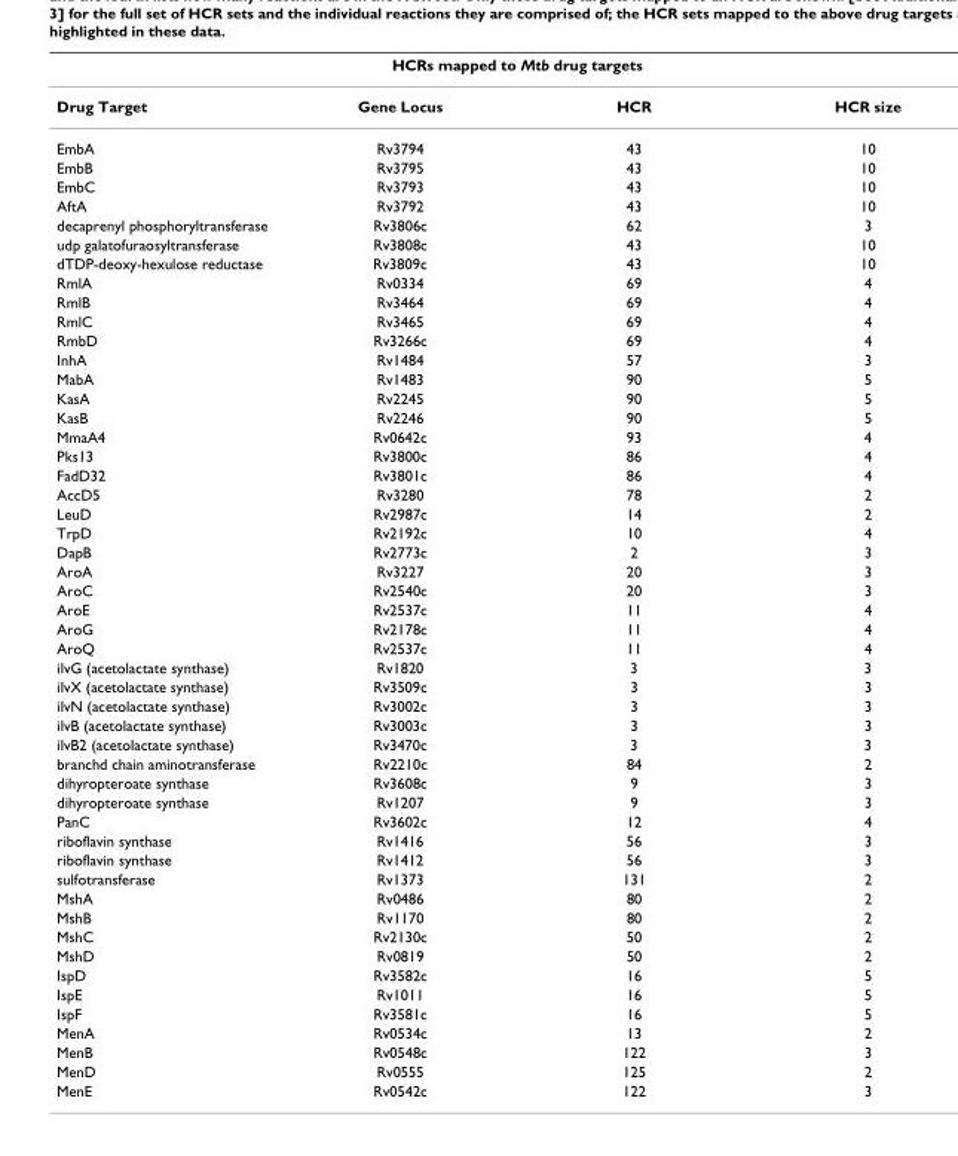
<table><thead><tr><td colspan="4">HCRs mapped to Mtb drug targets</td></tr><tr><td>Drug Target</td><td>Gene Locus</td><td>HCR</td><td>HCR size</td></tr></thead><tbody><tr><td>EmbA</td><td>Rv3794</td><td>43</td><td>10</td></tr><tr><td>EmbB</td><td>Rv3795</td><td>43</td><td>10</td></tr><tr><td>EmbC</td><td>Rv3793</td><td>43</td><td>10</td></tr><tr><td>AftA</td><td>Rv3792</td><td>43</td><td>10</td></tr><tr><td>decaprenyl phosphoryltransferase</td><td>Rv3806c</td><td>62</td><td>3</td></tr><tr><td>udp galatofuraosyltransferase</td><td>Rv3808c</td><td>43</td><td>10</td></tr><tr><td>dTDP-deoxy-hexulose reductase</td><td>Rv3809c</td><td>43</td><td>10</td></tr><tr><td>RmlA</td><td>Rv0334</td><td>69</td><td>4</td></tr><tr><td>RmlB</td><td>Rv3464</td><td>69</td><td>4</td></tr><tr><td>RmlC</td><td>Rv3465</td><td>69</td><td>4</td></tr><tr><td>RmbD</td><td>Rv3266c</td><td>69</td><td>4</td></tr><tr><td>InhA</td><td>Rv1484</td><td>57</td><td>3</td></tr><tr><td>MabA</td><td>Rv1483</td><td>90</td><td>5</td></tr><tr><td>KasA</td><td>Rv2245</td><td>90</td><td>5</td></tr><tr><td>KasB</td><td>Rv2246</td><td>90</td><td>5</td></tr><tr><td>MmaA4</td><td>Rv0642c</td><td>93</td><td>4</td></tr><tr><td>Pks13</td><td>Rv3800c</td><td>86</td><td>4</td></tr><tr><td>FadD32</td><td>Rv3801c</td><td>86</td><td>4</td></tr><tr><td>AccD5</td><td>Rv3280</td><td>78</td><td>2</td></tr><tr><td>LeuD</td><td>Rv2987c</td><td>14</td><td>2</td></tr><tr><td>TrpD</td><td>Rv2192c</td><td>10</td><td>4</td></tr><tr><td>DapB</td><td>Rv2773c</td><td>2</td><td>3</td></tr><tr><td>AroA</td><td>Rv3227</td><td>20</td><td>3</td></tr><tr><td>AroC</td><td>Rv2540c</td><td>20</td><td>3</td></tr><tr><td>AroE</td><td>Rv2537c</td><td>11</td><td>4</td></tr><tr><td>AroG</td><td>Rv2178c</td><td>11</td><td>4</td></tr><tr><td>AroQ</td><td>Rv2537c</td><td>11</td><td>4</td></tr><tr><td>ilvG (acetolactate synthase)</td><td>Rv1820</td><td>3</td><td>3</td></tr><tr><td>ilvX (acetolactate synthase)</td><td>Rv3509c</td><td>3</td><td>3</td></tr><tr><td>ilvN (acetolactate synthase)</td><td>Rv3002c</td><td>3</td><td>3</td></tr><tr><td>ilvB (acetolactate synthase)</td><td>Rv3003c</td><td>3</td><td>3</td></tr><tr><td>ilvB2 (acetolactate synthase)</td><td>Rv3470c</td><td>3</td><td>3</td></tr><tr><td>branchd chain aminotransferase</td><td>Rv2210c</td><td>84</td><td>2</td></tr><tr><td>dihyropteroate synthase</td><td>Rv3608c</td><td>9</td><td>3</td></tr><tr><td>dihyropteroate synthase</td><td>Rv1207</td><td>9</td><td>3</td></tr><tr><td>PanC</td><td>Rv3602c</td><td>12</td><td>4</td></tr><tr><td>riboflavin synthase</td><td>Rv1416</td><td>56</td><td>3</td></tr><tr><td>riboflavin synthase</td><td>Rv1412</td><td>56</td><td>3</td></tr><tr><td>sulfotransferase</td><td>Rv1373</td><td>131</td><td>2</td></tr><tr><td>MshA</td><td>Rv0486</td><td>80</td><td>2</td></tr><tr><td>MshB</td><td>Rv1170</td><td>80</td><td>2</td></tr><tr><td>MshC</td><td>Rv2130c</td><td>50</td><td>2</td></tr><tr><td>MshD</td><td>Rv0819</td><td>50</td><td>2</td></tr><tr><td>IspD</td><td>Rv3582c</td><td>16</td><td>5</td></tr><tr><td>IspE</td><td>Rv1011</td><td>16</td><td>5</td></tr><tr><td>IspF</td><td>Rv3581c</td><td>16</td><td>5</td></tr><tr><td>MenA</td><td>Rv0534c</td><td>13</td><td>2</td></tr><tr><td>MenB</td><td>Rv0548c</td><td>122</td><td>3</td></tr><tr><td>MenD</td><td>Rv0555</td><td>125</td><td>2</td></tr><tr><td>MenE</td><td>Rv0542c</td><td>122</td><td>3</td></tr></tbody></table>